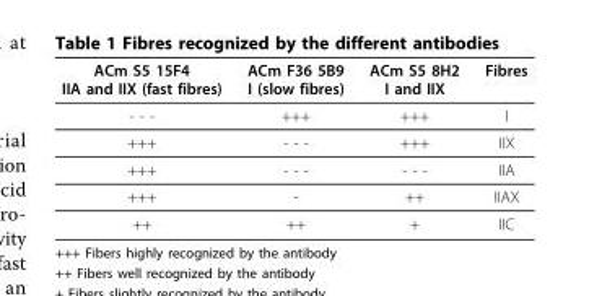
<table><thead><tr><td>ACm S5 15F4 IIA and IIX (fast fibres)</td><td>ACm F36 5B9 I (slow fibres)</td><td>ACm S5 8H2 I and IIX</td><td>Fibres</td></tr></thead><tbody><tr><td>- - -</td><td>+++</td><td>+++</td><td>I</td></tr><tr><td>+++</td><td>- - -</td><td>+++</td><td>IIX</td></tr><tr><td>+++</td><td>- - -</td><td>- - -</td><td>IIA</td></tr><tr><td>+++</td><td>-</td><td>++</td><td>IIAX</td></tr><tr><td>++</td><td>++</td><td>+</td><td>IIC</td></tr></tbody></table>